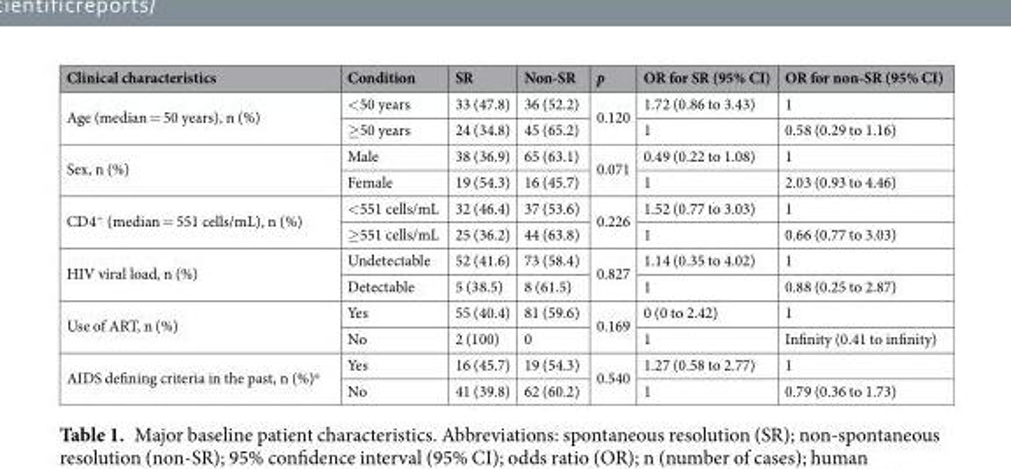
<table><thead><tr><td>Clinical characteristics</td><td>Condition</td><td>SR</td><td>Non-SR</td><td>p</td><td>OR for SR (95% CI)</td><td>OR for non-SR (95% CI)</td></tr></thead><tbody><tr><td rowspan="2">Age (median = 50 years), n (%)</td><td>&lt;50 years</td><td>33 (47.8)</td><td>36 (52.2)</td><td rowspan="2">0.120</td><td>1.72 (0.86 to 3.43)</td><td>1</td></tr><tr><td>≥50 years</td><td>24 (34.8)</td><td>45 (65.2)</td><td>1</td><td>0.58 (0.29 to 1.16)</td></tr><tr><td rowspan="2">Sex, n (%)</td><td>Male</td><td>38 (36.9)</td><td>65 (63.1)</td><td rowspan="2">0.071</td><td>0.49 (0.22 to 1.08)</td><td>1</td></tr><tr><td>Female</td><td>19 (54.3)</td><td>16 (45.7)</td><td>1</td><td>2.03 (0.93 to 4.46)</td></tr><tr><td rowspan="2">CD4<sup>+</sup> (median = 551 cells/mL), n (%)</td><td>&lt;551 cells/mL</td><td>32 (46.4)</td><td>37 (53.6)</td><td rowspan="2">0.226</td><td>1.52 (0.77 to 3.03)</td><td>1</td></tr><tr><td>≥551 cells/mL</td><td>25 (36.2)</td><td>44 (63.8)</td><td>1</td><td>0.66 (0.77 to 3.03)</td></tr><tr><td rowspan="2">HIV viral load, n (%)</td><td>Undetectable</td><td>52 (41.6)</td><td>73 (58.4)</td><td rowspan="2">0.827</td><td>1.14 (0.35 to 4.02)</td><td>1</td></tr><tr><td>Detectable</td><td>5 (38.5)</td><td>8 (61.5)</td><td>1</td><td>0.88 (0.25 to 2.87)</td></tr><tr><td rowspan="2">Use of ART, n (%)</td><td>Yes</td><td>55 (40.4)</td><td>81 (59.6)</td><td rowspan="2">0.169</td><td>0 (0 to 2.42)</td><td>1</td></tr><tr><td>No</td><td>2 (100)</td><td>0</td><td>1</td><td>Infinity (0.41 to infinity)</td></tr><tr><td rowspan="2">AIDS defining criteria in the past, n (%)<sup>a</sup></td><td>Yes</td><td>16 (45.7)</td><td>19 (54.3)</td><td rowspan="2">0.540</td><td>1.27 (0.58 to 2.77)</td><td>1</td></tr><tr><td>No</td><td>41 (39.8)</td><td>62 (60.2)</td><td>1</td><td>0.79 (0.36 to 1.73)</td></tr></tbody></table>